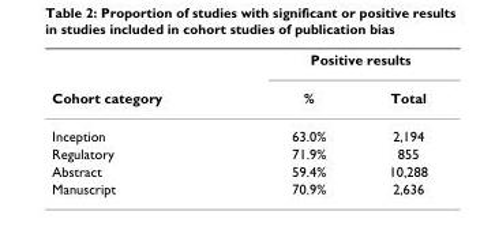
<table><thead><tr><td rowspan="2">Cohort category</td><td colspan="2">Positive results</td></tr><tr><td>%</td><td>Total</td></tr></thead><tbody><tr><td>Inception</td><td>63.0%</td><td>2,194</td></tr><tr><td>Regulatory</td><td>71.9%</td><td>855</td></tr><tr><td>Abstract</td><td>59.4%</td><td>10,288</td></tr><tr><td>Manuscript</td><td>70.9%</td><td>2,636</td></tr></tbody></table>